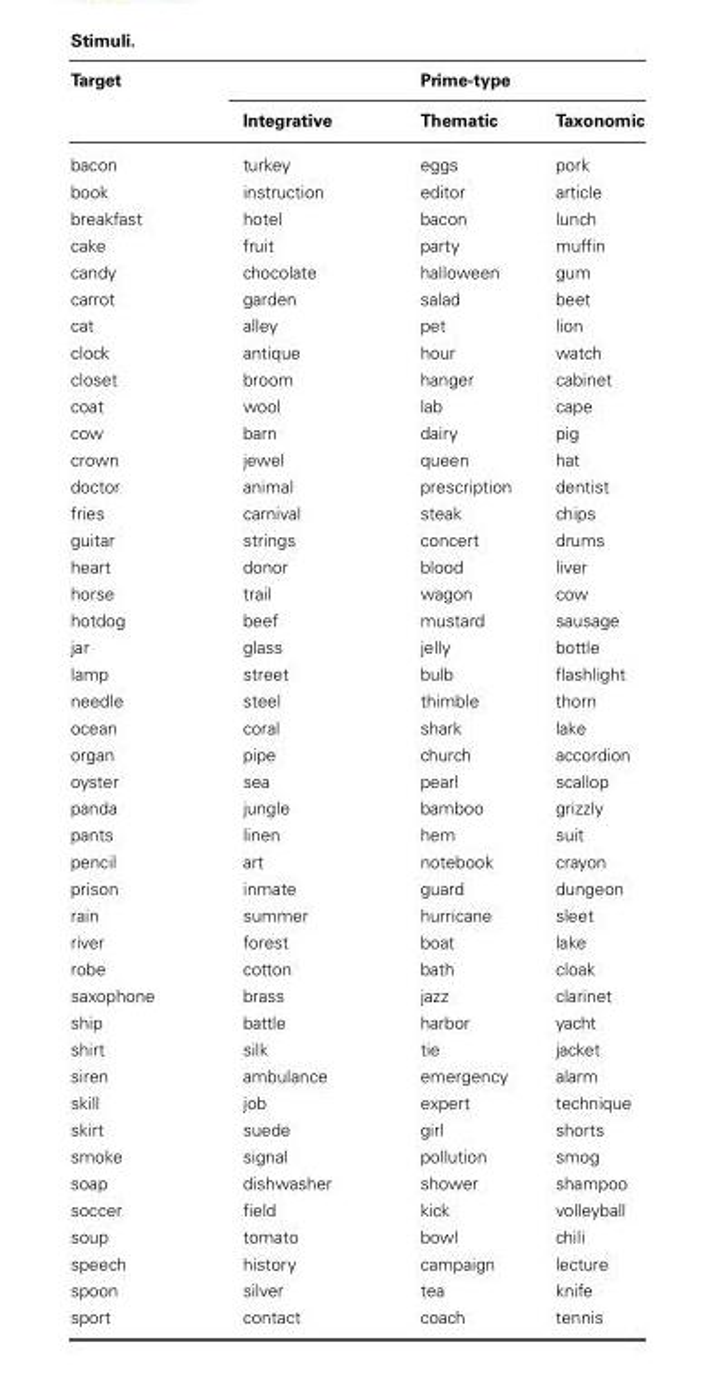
<table><thead><tr><td rowspan="2">Target</td><td colspan="3">Prime-type</td></tr><tr><td>Integrative</td><td>Thematic</td><td>Taxonomic</td></tr></thead><tbody><tr><td>bacon</td><td>turkey</td><td>eggs</td><td>pork</td></tr><tr><td>book</td><td>instruction</td><td>editor</td><td>article</td></tr><tr><td>breakfast</td><td>hotel</td><td>bacon</td><td>lunch</td></tr><tr><td>cake</td><td>fruit</td><td>party</td><td>muffin</td></tr><tr><td>candy</td><td>chocolate</td><td>halloween</td><td>gum</td></tr><tr><td>carrot</td><td>garden</td><td>salad</td><td>beet</td></tr><tr><td>cat</td><td>alley</td><td>pet</td><td>lion</td></tr><tr><td>clock</td><td>antique</td><td>hour</td><td>watch</td></tr><tr><td>closet</td><td>broom</td><td>hanger</td><td>cabinet</td></tr><tr><td>coat</td><td>wool</td><td>lab</td><td>cape</td></tr><tr><td>cow</td><td>barn</td><td>dairy</td><td>pig</td></tr><tr><td>crown</td><td>jewel</td><td>queen</td><td>hat</td></tr><tr><td>doctor</td><td>animal</td><td>prescription</td><td>dentist</td></tr><tr><td>fries</td><td>carnival</td><td>steak</td><td>chips</td></tr><tr><td>guitar</td><td>strings</td><td>concert</td><td>drums</td></tr><tr><td>heart</td><td>donor</td><td>blood</td><td>liver</td></tr><tr><td>horse</td><td>trail</td><td>wagon</td><td>cow</td></tr><tr><td>hotdog</td><td>beef</td><td>mustard</td><td>sausage</td></tr><tr><td>jar</td><td>glass</td><td>jelly</td><td>bottle</td></tr><tr><td>lamp</td><td>street</td><td>bulb</td><td>flashlight</td></tr><tr><td>needle</td><td>steel</td><td>thimble</td><td>thorn</td></tr><tr><td>ocean</td><td>coral</td><td>shark</td><td>lake</td></tr><tr><td>organ</td><td>pipe</td><td>church</td><td>accordion</td></tr><tr><td>oyster</td><td>sea</td><td>pearl</td><td>scallop</td></tr><tr><td>panda</td><td>jungle</td><td>bamboo</td><td>grizzly</td></tr><tr><td>pants</td><td>linen</td><td>hem</td><td>suit</td></tr><tr><td>pencil</td><td>art</td><td>notebook</td><td>crayon</td></tr><tr><td>prison</td><td>inmate</td><td>guard</td><td>dungeon</td></tr><tr><td>rain</td><td>summer</td><td>hurricane</td><td>sleet</td></tr><tr><td>river</td><td>forest</td><td>boat</td><td>lake</td></tr><tr><td>robe</td><td>cotton</td><td>bath</td><td>cloak</td></tr><tr><td>saxophone</td><td>brass</td><td>jazz</td><td>clarinet</td></tr><tr><td>ship</td><td>battle</td><td>harbor</td><td>yacht</td></tr><tr><td>shirt</td><td>silk</td><td>tie</td><td>jacket</td></tr><tr><td>siren</td><td>ambulance</td><td>emergency</td><td>alarm</td></tr><tr><td>skill</td><td>job</td><td>expert</td><td>technique</td></tr><tr><td>skirt</td><td>suede</td><td>girl</td><td>shorts</td></tr><tr><td>smoke</td><td>signal</td><td>pollution</td><td>smog</td></tr><tr><td>soap</td><td>dishwasher</td><td>shower</td><td>shampoo</td></tr><tr><td>soccer</td><td>field</td><td>kick</td><td>volleyball</td></tr><tr><td>soup</td><td>tomato</td><td>bowl</td><td>chili</td></tr><tr><td>speech</td><td>history</td><td>campaign</td><td>lecture</td></tr><tr><td>spoon</td><td>silver</td><td>tea</td><td>knife</td></tr><tr><td>sport</td><td>contact</td><td>coach</td><td>tennis</td></tr></tbody></table>